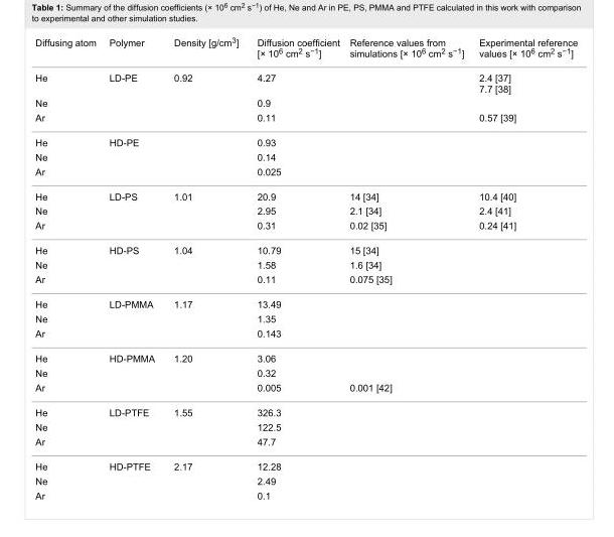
<table><tbody><tr><td>Diffusing atom</td><td>Polymer</td><td>Density [g/cm<sup>3</sup>]</td><td>Diffusion coefficient [× 10<sup>6</sup> cm<sup>2</sup> s<sup>−1</sup>]</td><td>Reference values from simulations [× 10<sup>6</sup> cm<sup>2</sup> s<sup>−1</sup>]</td><td>Experimental reference values [× 10<sup>6</sup> cm<sup>2</sup> s<sup>−1</sup>]</td></tr><tr><td>He</td><td>LD-PE</td><td>0.92</td><td>4.27</td><td></td><td>2.4 [37] 7.7 [38]</td></tr><tr><td>Ne</td><td></td><td></td><td>0.9</td><td></td><td></td></tr><tr><td>Ar</td><td></td><td></td><td>0.11</td><td></td><td>0.57 [39]</td></tr><tr><td>He</td><td>HD-PE</td><td></td><td>0.93</td><td></td><td></td></tr><tr><td>Ne</td><td></td><td></td><td>0.14</td><td></td><td></td></tr><tr><td>Ar</td><td></td><td></td><td>0.025</td><td></td><td></td></tr><tr><td>He</td><td>LD-PS</td><td>1.01</td><td>20.9</td><td>14 [34]</td><td>10.4 [40]</td></tr><tr><td>Ne</td><td></td><td></td><td>2.95</td><td>2.1 [34]</td><td>2.4 [41]</td></tr><tr><td>Ar</td><td></td><td></td><td>0.31</td><td>0.02 [35]</td><td>0.24 [41]</td></tr><tr><td>He</td><td>HD-PS</td><td>1.04</td><td>10.79</td><td>15 [34]</td><td></td></tr><tr><td>Ne</td><td></td><td></td><td>1.58</td><td>1.6 [34]</td><td></td></tr><tr><td>Ar</td><td></td><td></td><td>0.11</td><td>0.075 [35]</td><td></td></tr><tr><td>He</td><td>LD-PMMA</td><td>1.17</td><td>13.49</td><td></td><td></td></tr><tr><td>Ne</td><td></td><td></td><td>1.35</td><td></td><td></td></tr><tr><td>Ar</td><td></td><td></td><td>0.143</td><td></td><td></td></tr><tr><td>He</td><td>HD-PMMA</td><td>1.20</td><td>3.06</td><td></td><td></td></tr><tr><td>Ne</td><td></td><td></td><td>0.32</td><td></td><td></td></tr><tr><td>Ar</td><td></td><td></td><td>0.005</td><td>0.001 [42]</td><td></td></tr><tr><td>He</td><td>LD-PTFE</td><td>1.55</td><td>326.3</td><td></td><td></td></tr><tr><td>Ne</td><td></td><td></td><td>122.5</td><td></td><td></td></tr><tr><td>Ar</td><td></td><td></td><td>47.7</td><td></td><td></td></tr><tr><td>He</td><td>HD-PTFE</td><td>2.17</td><td>12.28</td><td></td><td></td></tr><tr><td>Ne</td><td></td><td></td><td>2.49</td><td></td><td></td></tr><tr><td>Ar</td><td></td><td></td><td>0.1</td><td></td><td></td></tr></tbody></table>